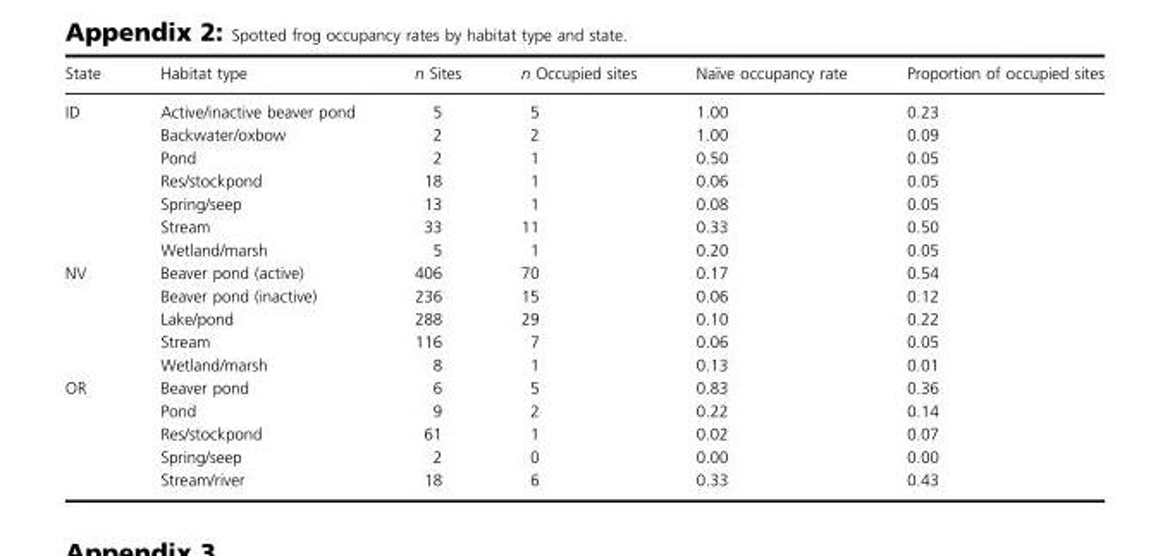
<table><thead><tr><td>State</td><td>Habitat type</td><td>n Sites</td><td>n Occupied sites</td><td>Na€ıve occupancy rate</td><td>Proportion of occupied sites</td></tr></thead><tbody><tr><td rowspan="7">ID</td><td>Active/inactive beaver pond</td><td>5</td><td>5</td><td>1.00</td><td>0.23</td></tr><tr><td>Backwater/oxbow</td><td>2</td><td>2</td><td>1.00</td><td>0.09</td></tr><tr><td>Pond</td><td>2</td><td>1</td><td>0.50</td><td>0.05</td></tr><tr><td>Res/stockpond</td><td>18</td><td>1</td><td>0.06</td><td>0.05</td></tr><tr><td>Spring/seep</td><td>13</td><td>1</td><td>0.08</td><td>0.05</td></tr><tr><td>Stream</td><td>33</td><td>11</td><td>0.33</td><td>0.50</td></tr><tr><td>Wetland/marsh</td><td>5</td><td>1</td><td>0.20</td><td>0.05</td></tr><tr><td rowspan="5">NV</td><td>Beaver pond (active)</td><td>406</td><td>70</td><td>0.17</td><td>0.54</td></tr><tr><td>Beaver pond (inactive)</td><td>236</td><td>15</td><td>0.06</td><td>0.12</td></tr><tr><td>Lake/pond</td><td>288</td><td>29</td><td>0.10</td><td>0.22</td></tr><tr><td>Stream</td><td>116</td><td>7</td><td>0.06</td><td>0.05</td></tr><tr><td>Wetland/marsh</td><td>8</td><td>1</td><td>0.13</td><td>0.01</td></tr><tr><td rowspan="5">OR</td><td>Beaver pond</td><td>6</td><td>5</td><td>0.83</td><td>0.36</td></tr><tr><td>Pond</td><td>9</td><td>2</td><td>0.22</td><td>0.14</td></tr><tr><td>Res/stockpond</td><td>61</td><td>1</td><td>0.02</td><td>0.07</td></tr><tr><td>Spring/seep</td><td>2</td><td>0</td><td>0.00</td><td>0.00</td></tr><tr><td>Stream/river</td><td>18</td><td>6</td><td>0.33</td><td>0.43</td></tr></tbody></table>